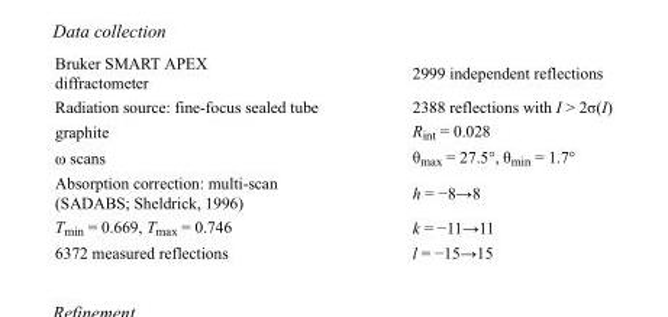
<table><tbody><tr><td>Bruker SMART APEX diffractometer</td><td>2999 independent reflections</td></tr><tr><td>Radiation source: fine-focus sealed tube</td><td>2388 reflections with I &gt; 2σ(I)</td></tr><tr><td>graphite</td><td>R<sub>int</sub> = 0.028</td></tr><tr><td>ω scans</td><td>θ<sub>max</sub> = 27.5°, θ<sub>min</sub> = 1.7°</td></tr><tr><td>Absorption correction: multi-scan (SADABS; Sheldrick, 1996)</td><td>h = −8→8</td></tr><tr><td>T<sub>min</sub> = 0.669, T<sub>max</sub> = 0.746</td><td>k = −11→11</td></tr><tr><td>6372 measured reflections</td><td>l = −15→15</td></tr></tbody></table>